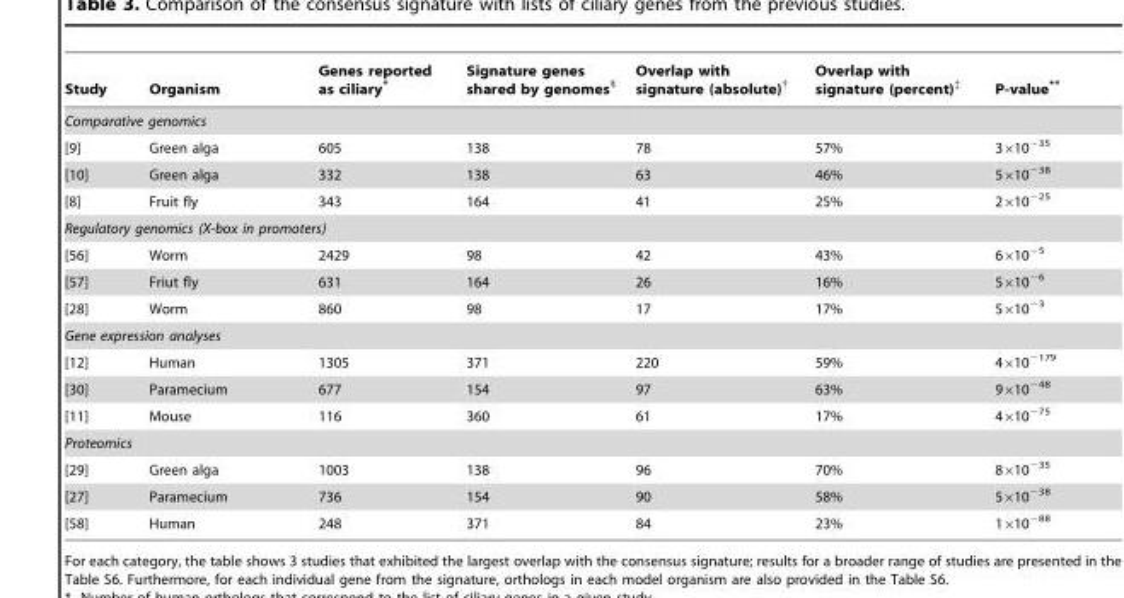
<table><thead><tr><td>Study</td><td>Organism</td><td>Genes reported as ciliary*</td><td>Signature genes shared by genomes§</td><td>Overlap with signature (absolute)†</td><td>Overlap with signature (percent)‡</td><td>P-value**</td></tr></thead><tbody><tr><td colspan="7">Comparative genomics</td></tr><tr><td>[9]</td><td>Green alga</td><td>605</td><td>138</td><td>78</td><td>57%</td><td>3×10<sup>−35</sup></td></tr><tr><td>[10]</td><td>Green alga</td><td>332</td><td>138</td><td>63</td><td>46%</td><td>5×10<sup>−38</sup></td></tr><tr><td>[8]</td><td>Fruit fly</td><td>343</td><td>164</td><td>41</td><td>25%</td><td>2×10<sup>−25</sup></td></tr><tr><td colspan="7">Regulatory genomics (X-box in promoters)</td></tr><tr><td>[56]</td><td>Worm</td><td>2429</td><td>98</td><td>42</td><td>43%</td><td>6×10<sup>−5</sup></td></tr><tr><td>[57]</td><td>Friut fly</td><td>631</td><td>164</td><td>26</td><td>16%</td><td>5×10<sup>−6</sup></td></tr><tr><td>[28]</td><td>Worm</td><td>860</td><td>98</td><td>17</td><td>17%</td><td>5×10<sup>−3</sup></td></tr><tr><td colspan="7">Gene expression analyses</td></tr><tr><td>[12]</td><td>Human</td><td>1305</td><td>371</td><td>220</td><td>59%</td><td>4×10<sup>−179</sup></td></tr><tr><td>[30]</td><td>Paramecium</td><td>677</td><td>154</td><td>97</td><td>63%</td><td>9×10<sup>−48</sup></td></tr><tr><td>[11]</td><td>Mouse</td><td>116</td><td>360</td><td>61</td><td>17%</td><td>4×10<sup>−75</sup></td></tr><tr><td colspan="7">Proteomics</td></tr><tr><td>[29]</td><td>Green alga</td><td>1003</td><td>138</td><td>96</td><td>70%</td><td>8×10<sup>−35</sup></td></tr><tr><td>[27]</td><td>Paramecium</td><td>736</td><td>154</td><td>90</td><td>58%</td><td>5×10<sup>−38</sup></td></tr><tr><td>[58]</td><td>Human</td><td>248</td><td>371</td><td>84</td><td>23%</td><td>1×10<sup>−88</sup></td></tr></tbody></table>